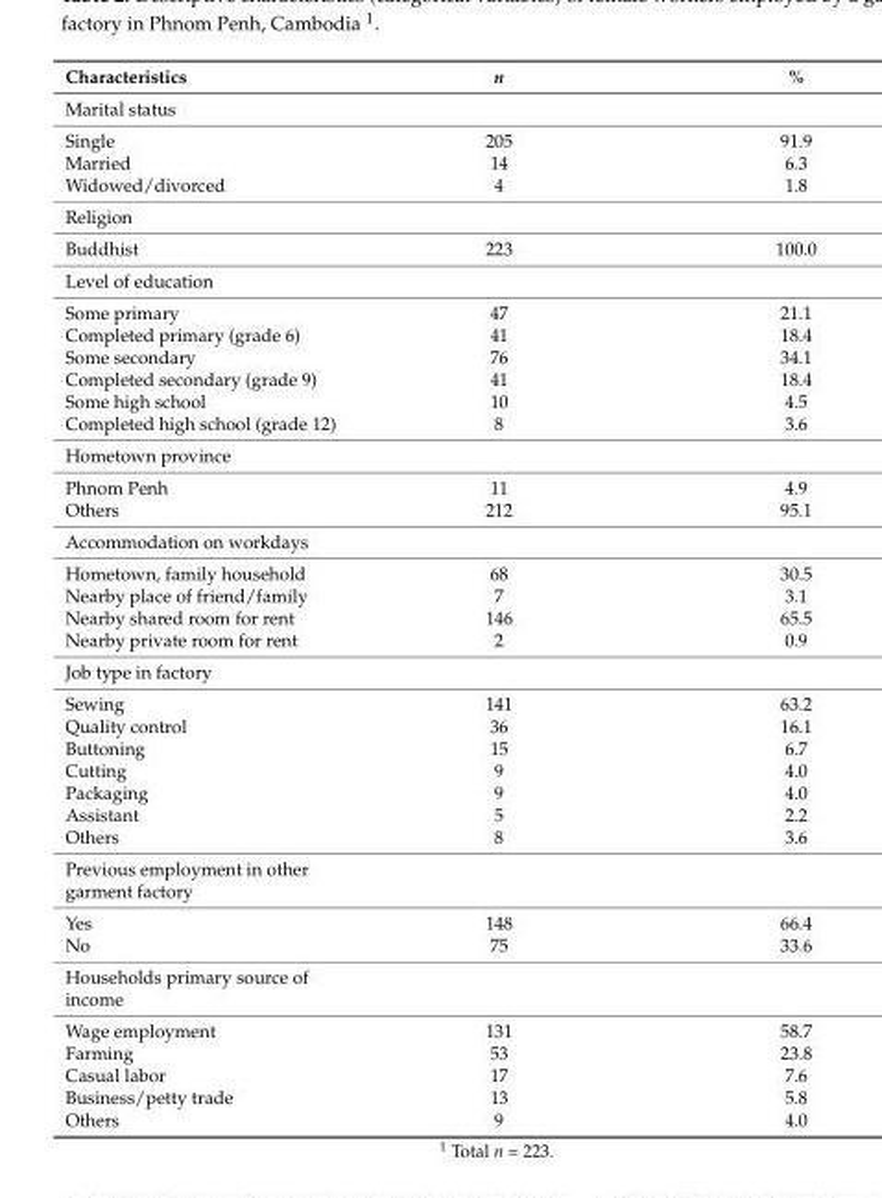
<table><thead><tr><td>Characteristics</td><td>n</td><td>%</td></tr></thead><tbody><tr><td colspan="3">Marital status</td></tr><tr><td>Single</td><td>205</td><td>91.9</td></tr><tr><td>Married</td><td>14</td><td>6.3</td></tr><tr><td>Widowed/divorced</td><td>4</td><td>1.8</td></tr><tr><td colspan="3">Religion</td></tr><tr><td>Buddhist</td><td>223</td><td>100.0</td></tr><tr><td colspan="3">Level of education</td></tr><tr><td>Some primary</td><td>47</td><td>21.1</td></tr><tr><td>Completed primary (grade 6)</td><td>41</td><td>18.4</td></tr><tr><td>Some secondary</td><td>76</td><td>34.1</td></tr><tr><td>Completed secondary (grade 9)</td><td>41</td><td>18.4</td></tr><tr><td>Some high school</td><td>10</td><td>4.5</td></tr><tr><td>Completed high school (grade 12)</td><td>8</td><td>3.6</td></tr><tr><td colspan="3">Hometown province</td></tr><tr><td>Phnom Penh</td><td>11</td><td>4.9</td></tr><tr><td>Others</td><td>212</td><td>95.1</td></tr><tr><td colspan="3">Accommodation on workdays</td></tr><tr><td>Hometown, family household</td><td>68</td><td>30.5</td></tr><tr><td>Nearby place of friend/family</td><td>7</td><td>3.1</td></tr><tr><td>Nearby shared room for rent</td><td>146</td><td>65.5</td></tr><tr><td>Nearby private room for rent</td><td>2</td><td>0.9</td></tr><tr><td colspan="3">Job type in factory</td></tr><tr><td>Sewing</td><td>141</td><td>63.2</td></tr><tr><td>Quality control</td><td>36</td><td>16.1</td></tr><tr><td>Buttoning</td><td>15</td><td>6.7</td></tr><tr><td>Cutting</td><td>9</td><td>4.0</td></tr><tr><td>Packaging</td><td>9</td><td>4.0</td></tr><tr><td>Assistant</td><td>5</td><td>2.2</td></tr><tr><td>Others</td><td>8</td><td>3.6</td></tr><tr><td colspan="3">Previous employment in other garment factory</td></tr><tr><td>Yes</td><td>148</td><td>66.4</td></tr><tr><td>No</td><td>75</td><td>33.6</td></tr><tr><td colspan="3">Households primary source of income</td></tr><tr><td>Wage employment</td><td>131</td><td>58.7</td></tr><tr><td>Farming</td><td>53</td><td>23.8</td></tr><tr><td>Casual labor</td><td>17</td><td>7.6</td></tr><tr><td>Business/petty trade</td><td>13</td><td>5.8</td></tr><tr><td>Others</td><td>9</td><td>4.0</td></tr></tbody></table>